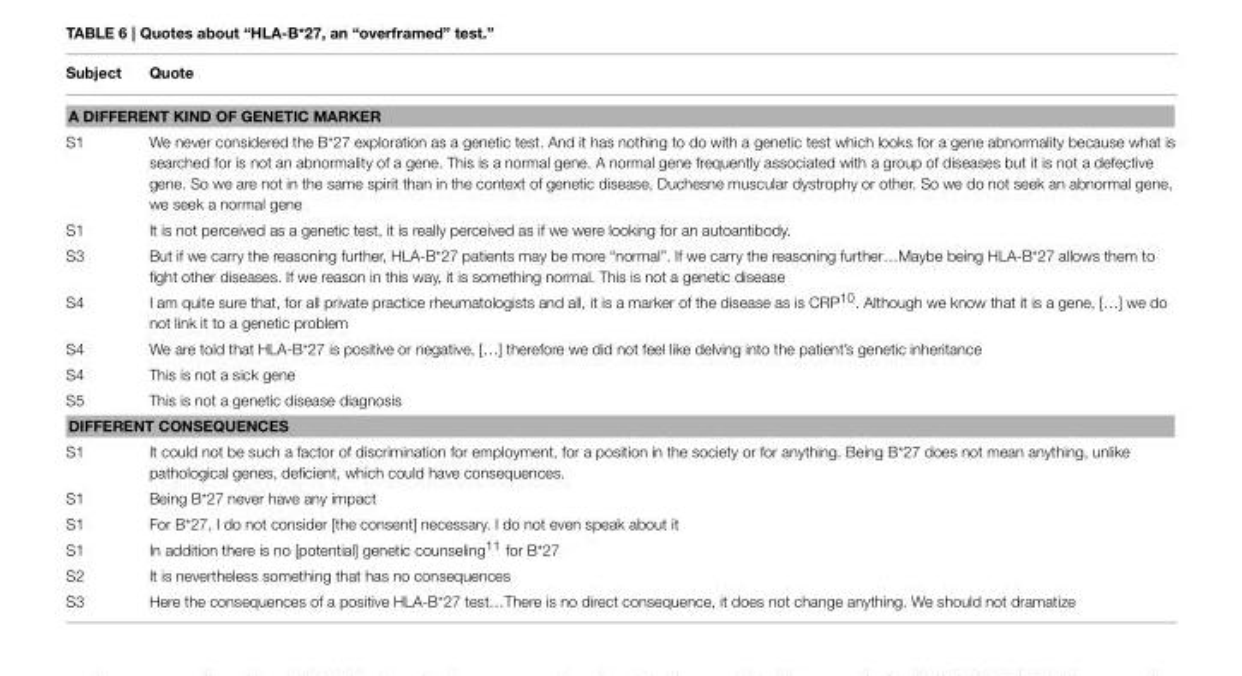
<table><thead><tr><td>Subject</td><td>Quote</td></tr></thead><tbody><tr><td colspan="2">A DIFFERENT KIND OF GENETIC MARKER</td></tr><tr><td>S1</td><td>We never considered the B*27 exploration as a genetic test. And it has nothing to do with a genetic test which looks for a gene abnormality because what is searched for is not an abnormality of a gene. This is a normal gene. A normal gene frequently associated with a group of diseases but it is not a defective gene. So we are not in the same spirit than in the context of genetic disease, Duchesne muscular dystrophy or other. So we do not seek an abnormal gene, we seek a normal gene</td></tr><tr><td>S1</td><td>It is not perceived as a genetic test, it is really perceived as if we were looking for an autoantibody.</td></tr><tr><td>S3</td><td>But if we carry the reasoning further, HLA-B*27 patients may be more “normal”. If we carry the reasoning further…Maybe being HLA-B*27 allows them to fight other diseases. If we reason in this way, it is something normal. This is not a genetic disease</td></tr><tr><td>S4</td><td>I am quite sure that, for all private practice rheumatologists and all, it is a marker of the disease as is CRP<sup>10</sup>. Although we know that it is a gene, […] we do not link it to a genetic problem</td></tr><tr><td>S4</td><td>We are told that HLA-B*27 is positive or negative, […] therefore we did not feel like delving into the patient’s genetic inheritance</td></tr><tr><td>S4</td><td>This is not a sick gene</td></tr><tr><td>S5</td><td>This is not a genetic disease diagnosis</td></tr><tr><td colspan="2">DIFFERENT CONSEQUENCES</td></tr><tr><td>S1</td><td>It could not be such a factor of discrimination for employment, for a position in the society or for anything. Being B*27 does not mean anything, unlike pathological genes, deficient, which could have consequences.</td></tr><tr><td>S1</td><td>Being B*27 never have any impact</td></tr><tr><td>S1</td><td>For B*27, I do not consider [the consent] necessary. I do not even speak about it</td></tr><tr><td>S1</td><td>In addition there is no [potential] genetic counseling<sup>11</sup> for B*27</td></tr><tr><td>S2</td><td>It is nevertheless something that has no consequences</td></tr><tr><td>S3</td><td>Here the consequences of a positive HLA-B*27 test…There is no direct consequence, it does not change anything. We should not dramatize</td></tr></tbody></table>